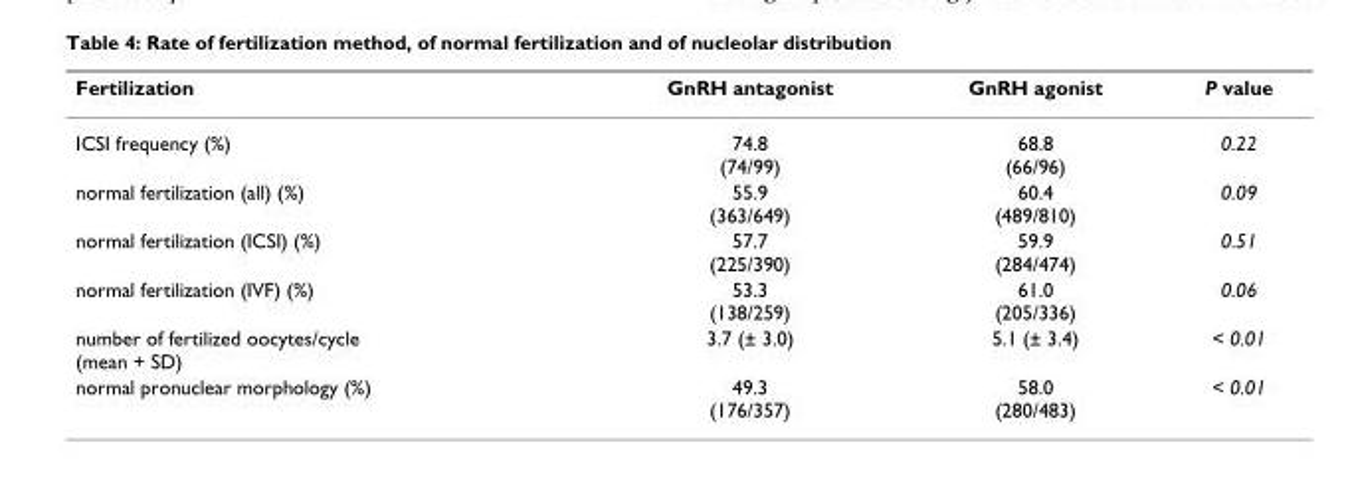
<table><thead><tr><td>Fertilization</td><td>GnRH antagonist</td><td>GnRH agonist</td><td>P value</td></tr></thead><tbody><tr><td>ICSI frequency (%)</td><td>74.8 (74/99)</td><td>68.8 (66/96)</td><td>0.22</td></tr><tr><td>normal fertilization (all) (%)</td><td>55.9 (363/649)</td><td>60.4 (489/810)</td><td>0.09</td></tr><tr><td>normal fertilization (ICSI) (%)</td><td>57.7 (225/390)</td><td>59.9 (284/474)</td><td>0.51</td></tr><tr><td>normal fertilization (IVF) (%)</td><td>53.3 (138/259)</td><td>61.0 (205/336)</td><td>0.06</td></tr><tr><td>number of fertilized oocytes/cycle (mean + SD)</td><td>3.7 (± 3.0)</td><td>5.1 (± 3.4)</td><td>&lt; 0.01</td></tr><tr><td>normal pronuclear morphology (%)</td><td>49.3 (176/357)</td><td>58.0 (280/483)</td><td>&lt; 0.01</td></tr></tbody></table>